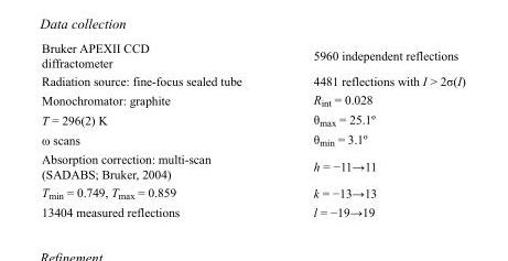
<table><tbody><tr><td>Bruker APEXII CCD diffractometer</td><td>5960 independent reflections</td></tr><tr><td>Radiation source: fine-focus sealed tube</td><td>4481 reflections with I &gt; 2σ(I)</td></tr><tr><td>Monochromator: graphite</td><td>R<sub>int</sub> = 0.028</td></tr><tr><td>T = 296(2) K</td><td>θ<sub>max</sub> = 25.1º</td></tr><tr><td>ω scans</td><td>θ<sub>min</sub> = 3.1º</td></tr><tr><td>Absorption correction: multi-scan (SADABS; Bruker, 2004)</td><td>h = −11→11</td></tr><tr><td>T<sub>min</sub> = 0.749, T<sub>max</sub> = 0.859</td><td>k = −13→13</td></tr><tr><td>13404 measured reflections</td><td>l = −19→19</td></tr></tbody></table>